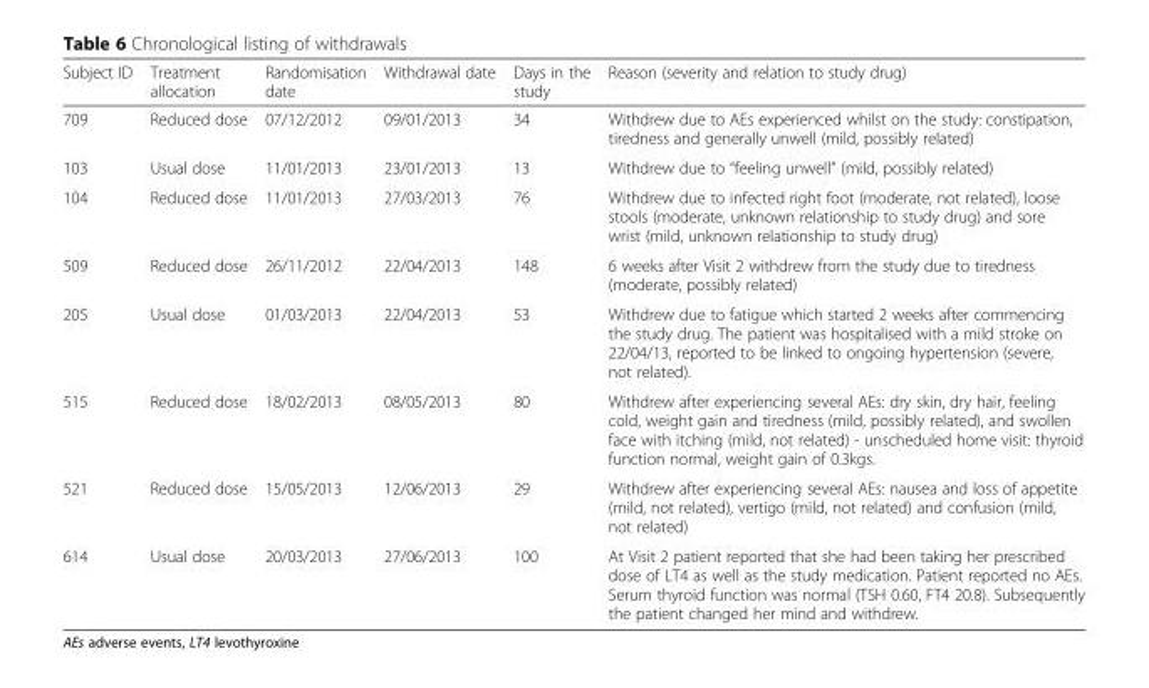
<table><thead><tr><td>Subject ID</td><td>Treatment allocation</td><td>Randomisation date</td><td>Withdrawal date</td><td>Days in the study</td><td>Reason (severity and relation to study drug)</td></tr></thead><tbody><tr><td>709</td><td>Reduced dose</td><td>07/12/2012</td><td>09/01/2013</td><td>34</td><td>Withdrew due to AEs experienced whilst on the study: constipation, tiredness and generally unwell (mild, possibly related)</td></tr><tr><td>103</td><td>Usual dose</td><td>11/01/2013</td><td>23/01/2013</td><td>13</td><td>Withdrew due to “feeling unwell” (mild, possibly related)</td></tr><tr><td>104</td><td>Reduced dose</td><td>11/01/2013</td><td>27/03/2013</td><td>76</td><td>Withdrew due to infected right foot (moderate, not related), loose stools (moderate, unknown relationship to study drug) and sore wrist (mild, unknown relationship to study drug)</td></tr><tr><td>509</td><td>Reduced dose</td><td>26/11/2012</td><td>22/04/2013</td><td>148</td><td>6 weeks after Visit 2 withdrew from the study due to tiredness (moderate, possibly related)</td></tr><tr><td>205</td><td>Usual dose</td><td>01/03/2013</td><td>22/04/2013</td><td>53</td><td>Withdrew due to fatigue which started 2 weeks after commencing the study drug. The patient was hospitalised with a mild stroke on 22/04/13, reported to be linked to ongoing hypertension (severe, not related).</td></tr><tr><td>515</td><td>Reduced dose</td><td>18/02/2013</td><td>08/05/2013</td><td>80</td><td>Withdrew after experiencing several AEs: dry skin, dry hair, feeling cold, weight gain and tiredness (mild, possibly related), and swollen face with itching (mild, not related) - unscheduled home visit: thyroid function normal, weight gain of 0.3kgs.</td></tr><tr><td>521</td><td>Reduced dose</td><td>15/05/2013</td><td>12/06/2013</td><td>29</td><td>Withdrew after experiencing several AEs: nausea and loss of appetite (mild, not related), vertigo (mild, not related) and confusion (mild, not related)</td></tr><tr><td>614</td><td>Usual dose</td><td>20/03/2013</td><td>27/06/2013</td><td>100</td><td>At Visit 2 patient reported that she had been taking her prescribed dose of LT4 as well as the study medication. Patient reported no AEs. Serum thyroid function was normal (TSH 0.60, FT4 20.8). Subsequently the patient changed her mind and withdrew.</td></tr></tbody></table>